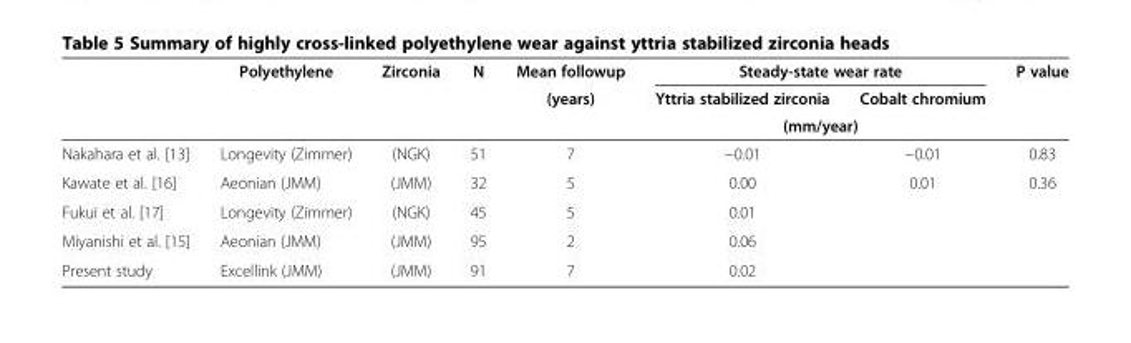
<table><thead><tr><td rowspan="3"></td><td rowspan="3">Polyethylene</td><td rowspan="3">Zirconia</td><td rowspan="3">N</td><td rowspan="3">Mean followup (years)</td><td colspan="2">Steady-state wear rate</td><td rowspan="3">P value</td></tr><tr><td>Yttria stabilized zirconia</td><td>Cobalt chromium</td></tr><tr><td colspan="2">(mm/year)</td></tr></thead><tbody><tr><td>Nakahara et al. [13]</td><td>Longevity (Zimmer)</td><td>(NGK)</td><td>51</td><td>7</td><td>−0.01</td><td>−0.01</td><td>0.83</td></tr><tr><td>Kawate et al. [16]</td><td>Aeonian (JMM)</td><td>(JMM)</td><td>32</td><td>5</td><td>0.00</td><td>0.01</td><td>0.36</td></tr><tr><td>Fukui et al. [17]</td><td>Longevity (Zimmer)</td><td>(NGK)</td><td>45</td><td>5</td><td>0.01</td><td></td><td></td></tr><tr><td>Miyanishi et al. [15]</td><td>Aeonian (JMM)</td><td>(JMM)</td><td>95</td><td>2</td><td>0.06</td><td></td><td></td></tr><tr><td>Present study</td><td>Excellink (JMM)</td><td>(JMM)</td><td>91</td><td>7</td><td>0.02</td><td></td><td></td></tr></tbody></table>